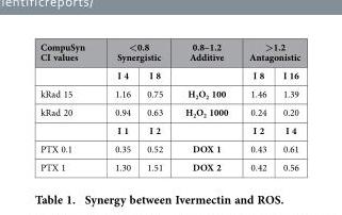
<table><thead><tr><td rowspan="2">CompuSyn CI values</td><td colspan="2">&lt;0.8 Synergistic</td><td rowspan="2">0.8–1.2 Additive</td><td colspan="2">&gt;1.2 Antagonistic</td></tr><tr><td>I 4</td><td>I 8</td><td>I 8</td><td>I 16</td></tr></thead><tbody><tr><td>kRad 15</td><td>1.16</td><td>0.75</td><td>H<sub>2</sub>O<sub>2</sub> 100</td><td>1.46</td><td>1.39</td></tr><tr><td rowspan="2">kRad 20</td><td>0.94</td><td>0.63</td><td>H<sub>2</sub>O<sub>2</sub> 1000</td><td>0.24</td><td>0.20</td></tr><tr><td>I 1</td><td>I 2</td><td></td><td>I 2</td><td>I 4</td></tr><tr><td>PTX 0.1</td><td>0.35</td><td>0.52</td><td>DOX 1</td><td>0.43</td><td>0.61</td></tr><tr><td>PTX 1</td><td>1.30</td><td>1.51</td><td>DOX 2</td><td>0.42</td><td>0.56</td></tr></tbody></table>